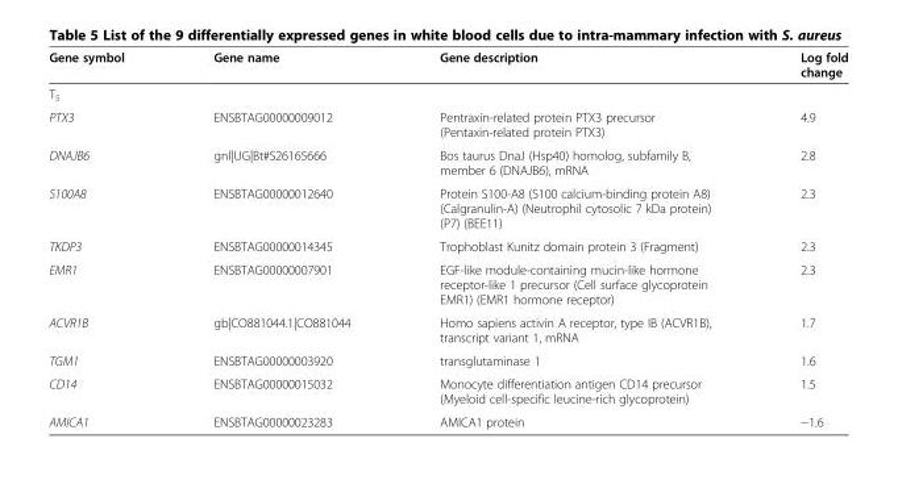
<table><thead><tr><td>Gene symbol</td><td>Gene name</td><td>Gene description</td><td>Log fold change</td></tr></thead><tbody><tr><td colspan="4">T<sub>5</sub></td></tr><tr><td>PTX3</td><td>ENSBTAG00000009012</td><td>Pentraxin-related protein PTX3 precursor (Pentaxin-related protein PTX3)</td><td>4.9</td></tr><tr><td>DNAJB6</td><td>gnl|UG|Bt#S26165666</td><td>Bos taurus DnaJ (Hsp40) homolog, subfamily B, member 6 (DNAJB6), mRNA</td><td>2.8</td></tr><tr><td>S100A8</td><td>ENSBTAG00000012640</td><td>Protein S100-A8 (S100 calcium-binding protein A8) (Calgranulin-A) (Neutrophil cytosolic 7 kDa protein) (P7) (BEE11)</td><td>2.3</td></tr><tr><td>TKDP3</td><td>ENSBTAG00000014345</td><td>Trophoblast Kunitz domain protein 3 (Fragment)</td><td>2.3</td></tr><tr><td>EMR1</td><td>ENSBTAG00000007901</td><td>EGF-like module-containing mucin-like hormone receptor-like 1 precursor (Cell surface glycoprotein EMR1) (EMR1 hormone receptor)</td><td>2.3</td></tr><tr><td>ACVR1B</td><td>gb|CO881044.1|CO881044</td><td>Homo sapiens activin A receptor, type IB (ACVR1B), transcript variant 1, mRNA</td><td>1.7</td></tr><tr><td>TGM1</td><td>ENSBTAG00000003920</td><td>transglutaminase 1</td><td>1.6</td></tr><tr><td>CD14</td><td>ENSBTAG00000015032</td><td>Monocyte differentiation antigen CD14 precursor (Myeloid cell-specific leucine-rich glycoprotein)</td><td>1.5</td></tr><tr><td>AMICA1</td><td>ENSBTAG00000023283</td><td>AMICA1 protein</td><td>−1.6</td></tr></tbody></table>